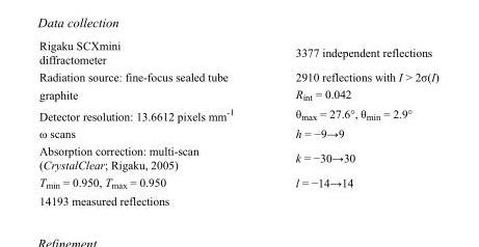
<table><tbody><tr><td>Rigaku SCXmini diffractometer</td><td>3377 independent reflections</td></tr><tr><td>Radiation source: fine-focus sealed tube</td><td>2910 reflections with I &gt; 2σ(I)</td></tr><tr><td>graphite</td><td>R<sub>int</sub> = 0.042</td></tr><tr><td>Detector resolution: 13.6612 pixels mm<sup>-1</sup></td><td>θ<sub>max</sub> = 27.6°, θ<sub>min</sub> = 2.9°</td></tr><tr><td>ω scans</td><td>h = −9→9</td></tr><tr><td>Absorption correction: multi-scan (CrystalClear; Rigaku, 2005)</td><td>k = −30→30</td></tr><tr><td>T<sub>min</sub> = 0.950, T<sub>max</sub> = 0.950</td><td>l = −14→14</td></tr><tr><td>14193 measured reflections</td><td></td></tr></tbody></table>